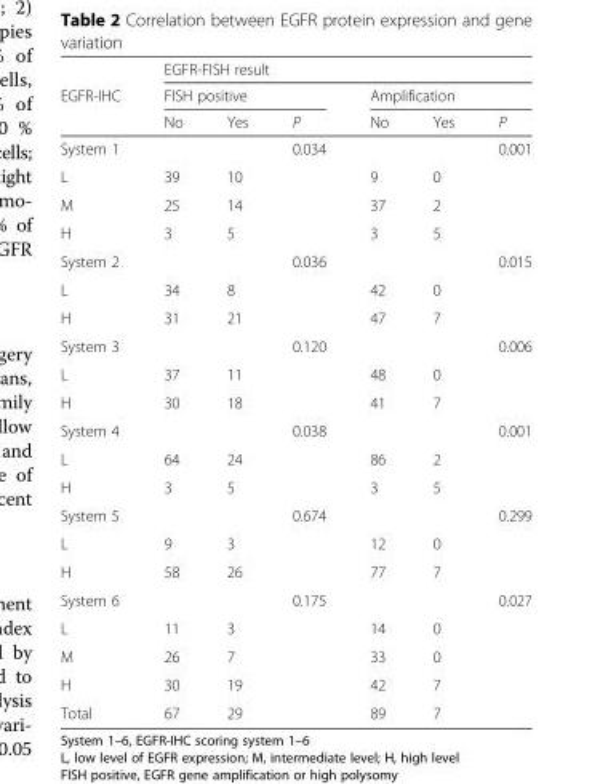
<table><thead><tr><td rowspan="3">EGFR-IHC</td><td colspan="6">EGFR-FISH result</td></tr><tr><td colspan="3">FISH positive</td><td colspan="3">Amplification</td></tr><tr><td>No</td><td>Yes</td><td>P</td><td>No</td><td>Yes</td><td>P</td></tr></thead><tbody><tr><td>System 1</td><td></td><td></td><td>0.034</td><td></td><td></td><td>0.001</td></tr><tr><td>L</td><td>39</td><td>10</td><td></td><td>9</td><td>0</td><td></td></tr><tr><td>M</td><td>25</td><td>14</td><td></td><td>37</td><td>2</td><td></td></tr><tr><td>H</td><td>3</td><td>5</td><td></td><td>3</td><td>5</td><td></td></tr><tr><td>System 2</td><td></td><td></td><td>0.036</td><td></td><td></td><td>0.015</td></tr><tr><td>L</td><td>34</td><td>8</td><td></td><td>42</td><td>0</td><td></td></tr><tr><td>H</td><td>31</td><td>21</td><td></td><td>47</td><td>7</td><td></td></tr><tr><td>System 3</td><td></td><td></td><td>0.120</td><td></td><td></td><td>0.006</td></tr><tr><td>L</td><td>37</td><td>11</td><td></td><td>48</td><td>0</td><td></td></tr><tr><td>H</td><td>30</td><td>18</td><td></td><td>41</td><td>7</td><td></td></tr><tr><td>System 4</td><td></td><td></td><td>0.038</td><td></td><td></td><td>0.001</td></tr><tr><td>L</td><td>64</td><td>24</td><td></td><td>86</td><td>2</td><td></td></tr><tr><td>H</td><td>3</td><td>5</td><td></td><td>3</td><td>5</td><td></td></tr><tr><td>System 5</td><td></td><td></td><td>0.674</td><td></td><td></td><td>0.299</td></tr><tr><td>L</td><td>9</td><td>3</td><td></td><td>12</td><td>0</td><td></td></tr><tr><td>H</td><td>58</td><td>26</td><td></td><td>77</td><td>7</td><td></td></tr><tr><td>System 6</td><td></td><td></td><td>0.175</td><td></td><td></td><td>0.027</td></tr><tr><td>L</td><td>11</td><td>3</td><td></td><td>14</td><td>0</td><td></td></tr><tr><td>M</td><td>26</td><td>7</td><td></td><td>33</td><td>0</td><td></td></tr><tr><td>H</td><td>30</td><td>19</td><td></td><td>42</td><td>7</td><td></td></tr><tr><td>Total</td><td>67</td><td>29</td><td></td><td>89</td><td>7</td><td></td></tr></tbody></table>